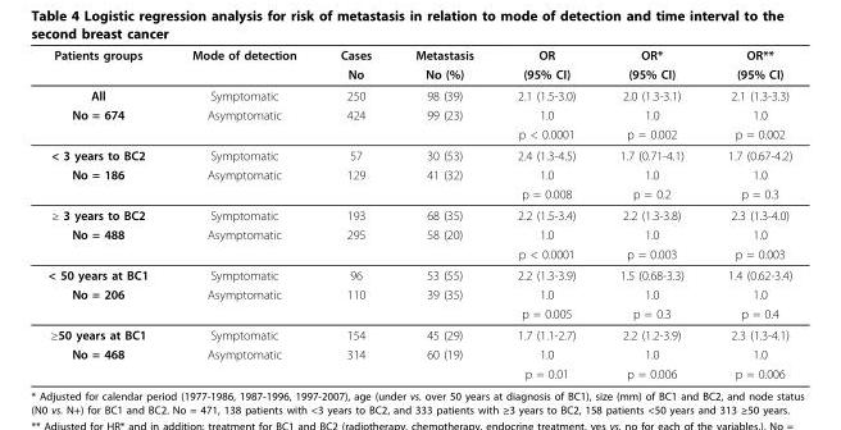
<table><thead><tr><td rowspan="2">Patients groups</td><td rowspan="2">Mode of detection</td><td rowspan="2">Cases No</td><td rowspan="2">Metastasis No (%)</td><td rowspan="2">OR (95% CI)</td><td rowspan="2">OR* (95% CI)</td><td rowspan="2">OR** (95% CI)</td></tr><tr></tr></thead><tbody><tr><td>All</td><td>Symptomatic</td><td>250</td><td>98 (39)</td><td>2.1 (1.5-3.0)</td><td>2.0 (1.3-3.1)</td><td>2.1 (1.3-3.3)</td></tr><tr><td rowspan="2">No = 674</td><td>Asymptomatic</td><td>424</td><td>99 (23)</td><td>1.0</td><td>1.0</td><td>1.0</td></tr><tr><td></td><td></td><td></td><td>p &lt; 0.0001</td><td>p = 0.002</td><td>p = 0.002</td></tr><tr><td>&lt; 3 years to BC2</td><td>Symptomatic</td><td>57</td><td>30 (53)</td><td>2.4 (1.3-4.5)</td><td>1.7 (0.71-4.1)</td><td>1.7 (0.67-4.2)</td></tr><tr><td rowspan="2">No = 186</td><td>Asymptomatic</td><td>129</td><td>41 (32)</td><td>1.0</td><td>1.0</td><td>1.0</td></tr><tr><td></td><td></td><td></td><td>p = 0.008</td><td>p = 0.2</td><td>p = 0.3</td></tr><tr><td>≥ 3 years to BC2</td><td>Symptomatic</td><td>193</td><td>68 (35)</td><td>2.2 (1.5-3.4)</td><td>2.2 (1.3-3.8)</td><td>2.3 (1.3-4.0)</td></tr><tr><td rowspan="2">No = 488</td><td>Asymptomatic</td><td>295</td><td>58 (20)</td><td>1.0</td><td>1.0</td><td>1.0</td></tr><tr><td></td><td></td><td></td><td>p &lt; 0.0001</td><td>p = 0.003</td><td>p = 0.003</td></tr><tr><td>&lt; 50 years at BC1</td><td>Symptomatic</td><td>96</td><td>53 (55)</td><td>2.2 (1.3-3.9)</td><td>1.5 (0.68-3.3)</td><td>1.4 (0.62-3.4)</td></tr><tr><td rowspan="2">No = 206</td><td>Asymptomatic</td><td>110</td><td>39 (35)</td><td>1.0</td><td>1.0</td><td>1.0</td></tr><tr><td></td><td></td><td></td><td>p = 0.005</td><td>p = 0.3</td><td>p = 0.4</td></tr><tr><td>≥50 years at BC1</td><td>Symptomatic</td><td>154</td><td>45 (29)</td><td>1.7 (1.1-2.7)</td><td>2.2 (1.2-3.9)</td><td>2.3 (1.3-4.1)</td></tr><tr><td rowspan="2">No = 468</td><td>Asymptomatic</td><td>314</td><td>60 (19)</td><td>1.0</td><td>1.0</td><td>1.0</td></tr><tr><td></td><td></td><td></td><td>p = 0.01</td><td>p = 0.006</td><td>p = 0.006</td></tr></tbody></table>